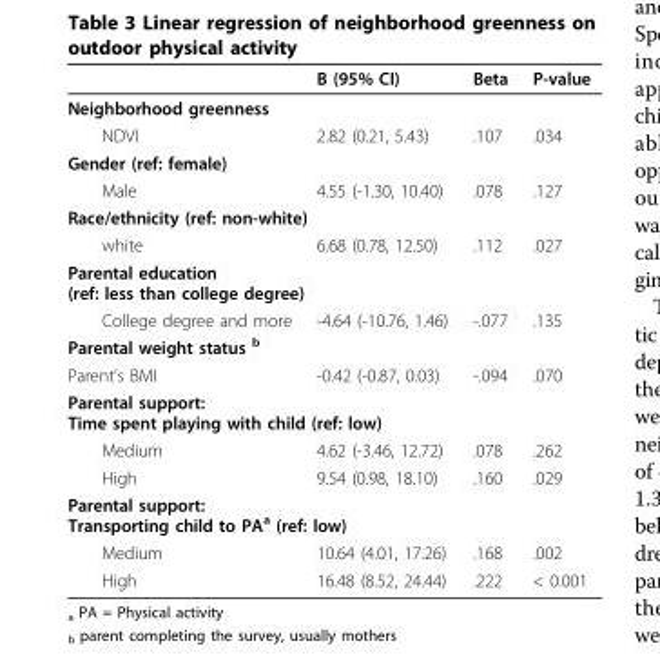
<table><thead><tr><td></td><td>B (95% CI)</td><td>Beta</td><td>P-value</td></tr></thead><tbody><tr><td colspan="4">Neighborhood greenness</td></tr><tr><td>NDVI</td><td>2.82 (0.21, 5.43)</td><td>.107</td><td>.034</td></tr><tr><td colspan="4">Gender (ref: female)</td></tr><tr><td>Male</td><td>4.55 (-1.30, 10.40)</td><td>.078</td><td>.127</td></tr><tr><td colspan="4">Race/ethnicity (ref: non-white)</td></tr><tr><td>white</td><td>6.68 (0.78, 12.50)</td><td>.112</td><td>.027</td></tr><tr><td colspan="4">Parental education (ref: less than college degree)</td></tr><tr><td>College degree and more</td><td>-4.64 (-10.76, 1.46)</td><td>-.077</td><td>.135</td></tr><tr><td colspan="4">Parental weight status <sup>b</sup></td></tr><tr><td>Parent’s BMI</td><td>-0.42 (-0.87, 0.03)</td><td>-.094</td><td>.070</td></tr><tr><td colspan="4">Parental support: Time spent playing with child (ref: low)</td></tr><tr><td>Medium</td><td>4.62 (-3.46, 12.72)</td><td>.078</td><td>.262</td></tr><tr><td>High</td><td>9.54 (0.98, 18.10)</td><td>.160</td><td>.029</td></tr><tr><td colspan="4">Parental support: Transporting child to PA<sup>a</sup> (ref: low)</td></tr><tr><td>Medium</td><td>10.64 (4.01, 17.26)</td><td>.168</td><td>.002</td></tr><tr><td>High</td><td>16.48 (8.52, 24.44)</td><td>.222</td><td>&lt; 0.001</td></tr></tbody></table>